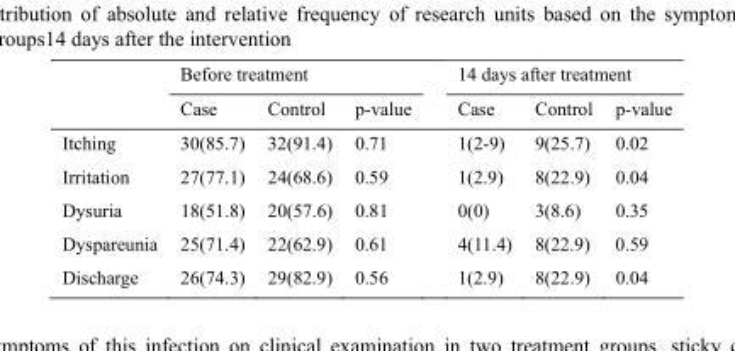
<table><thead><tr><td rowspan="2"></td><td colspan="3">Before treatment</td><td colspan="3">14 days after treatment</td></tr><tr><td>Case</td><td>Control</td><td>p-value</td><td>Case</td><td>Control</td><td>p-value</td></tr></thead><tbody><tr><td>Itching</td><td>30(85.7)</td><td>32(91.4)</td><td>0.71</td><td>1(2-9)</td><td>9(25.7)</td><td>0.02</td></tr><tr><td>Irritation</td><td>27(77.1)</td><td>24(68.6)</td><td>0.59</td><td>1(2.9)</td><td>8(22.9)</td><td>0.04</td></tr><tr><td>Dysuria</td><td>18(51.8)</td><td>20(57.6)</td><td>0.81</td><td>0(0)</td><td>3(8.6)</td><td>0.35</td></tr><tr><td>Dyspareunia</td><td>25(71.4)</td><td>22(62.9)</td><td>0.61</td><td>4(11.4)</td><td>8(22.9)</td><td>0.59</td></tr><tr><td>Discharge</td><td>26(74.3)</td><td>29(82.9)</td><td>0.56</td><td>1(2.9)</td><td>8(22.9)</td><td>0.04</td></tr></tbody></table>